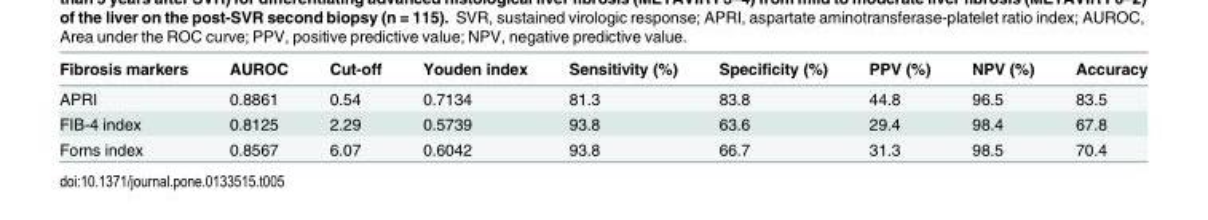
<table><thead><tr><td>Fibrosis markers</td><td>AUROC</td><td>Cut-off</td><td>Youden index</td><td>Sensitivity (%)</td><td>Specificity (%)</td><td>PPV (%)</td><td>NPV (%)</td><td>Accuracy</td></tr></thead><tbody><tr><td>APRI</td><td>0.8861</td><td>0.54</td><td>0.7134</td><td>81.3</td><td>83.8</td><td>44.8</td><td>96.5</td><td>83.5</td></tr><tr><td>FIB-4 index</td><td>0.8125</td><td>2.29</td><td>0.5739</td><td>93.8</td><td>63.6</td><td>29.4</td><td>98.4</td><td>67.8</td></tr><tr><td>Forns index</td><td>0.8567</td><td>6.07</td><td>0.6042</td><td>93.8</td><td>66.7</td><td>31.3</td><td>98.5</td><td>70.4</td></tr></tbody></table>